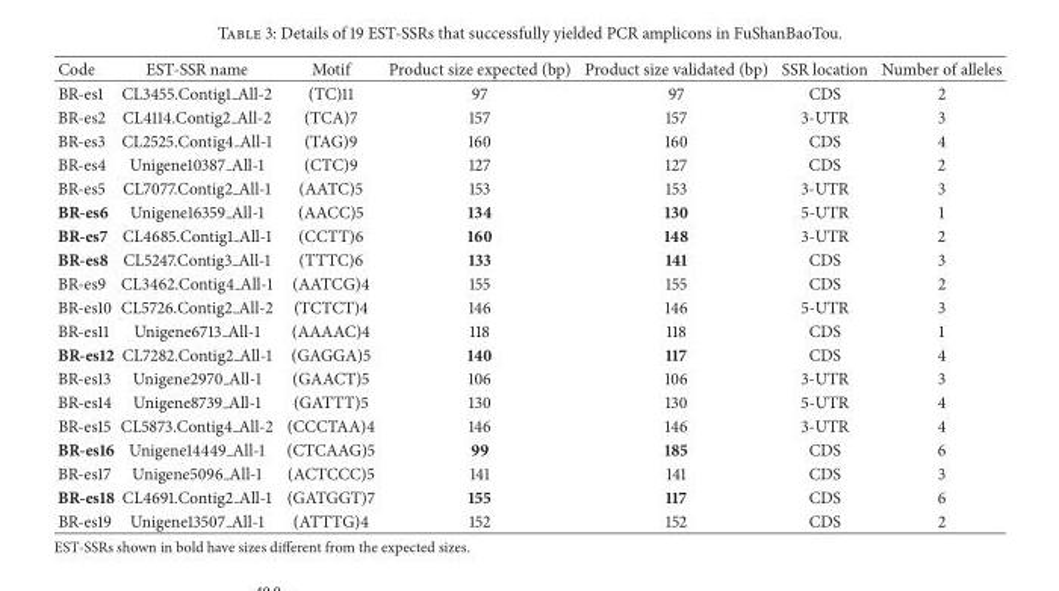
<table><thead><tr><td>Code</td><td>EST-SSR name</td><td>Motif</td><td>Product size expected (bp)</td><td>Product size validated (bp)</td><td>SSR location</td><td>Number of alleles</td></tr></thead><tbody><tr><td>BR-es1</td><td>CL3455.Contig1 All-2</td><td>(TC)11</td><td>97</td><td>97</td><td>CDS</td><td>2</td></tr><tr><td>BR-es2</td><td>CL4114.Contig2 All-2</td><td>(TCA)7</td><td>157</td><td>157</td><td>3-UTR</td><td>3</td></tr><tr><td>BR-es3</td><td>CL2525.Contig4 All-1</td><td>(TAG)9</td><td>160</td><td>160</td><td>CDS</td><td>4</td></tr><tr><td>BR-es4</td><td>Unigene10387 All-1</td><td>(CTC)9</td><td>127</td><td>127</td><td>CDS</td><td>2</td></tr><tr><td>BR-es5</td><td>CL7077.Contig2 All-1</td><td>(AATC)5</td><td>153</td><td>153</td><td>3-UTR</td><td>3</td></tr><tr><td>BR-es6</td><td>Unigene16359 All-1</td><td>(AACC)5</td><td>134</td><td>130</td><td>5-UTR</td><td>1</td></tr><tr><td>BR-es7</td><td>CL4685.Contig1 All-1</td><td>(CCTT)6</td><td>160</td><td>148</td><td>3-UTR</td><td>2</td></tr><tr><td>BR-es8</td><td>CL5247.Contig3 All-1</td><td>(TTTC)6</td><td>133</td><td>141</td><td>CDS</td><td>3</td></tr><tr><td>BR-es9</td><td>CL3462.Contig4 All-1</td><td>(AATCG)4</td><td>155</td><td>155</td><td>CDS</td><td>2</td></tr><tr><td>BR-es10</td><td>CL5726.Contig2 All-2</td><td>(TCTCT)4</td><td>146</td><td>146</td><td>5-UTR</td><td>3</td></tr><tr><td>BR-es11</td><td>Unigene6713 All-1</td><td>(AAAAC)4</td><td>118</td><td>118</td><td>CDS</td><td>1</td></tr><tr><td>BR-es12</td><td>CL7282.Contig2 All-1</td><td>(GAGGA)5</td><td>140</td><td>117</td><td>CDS</td><td>4</td></tr><tr><td>BR-es13</td><td>Unigene2970 All-1</td><td>(GAACT)5</td><td>106</td><td>106</td><td>3-UTR</td><td>3</td></tr><tr><td>BR-es14</td><td>Unigene8739 All-1</td><td>(GATTT)5</td><td>130</td><td>130</td><td>5-UTR</td><td>4</td></tr><tr><td>BR-es15</td><td>CL5873.Contig4 All-2</td><td>(CCCTAA)4</td><td>146</td><td>146</td><td>3-UTR</td><td>4</td></tr><tr><td>BR-es16</td><td>Unigene14449 All-1</td><td>(CTCAAG)5</td><td>99</td><td>185</td><td>CDS</td><td>6</td></tr><tr><td>BR-es17</td><td>Unigene5096 All-1</td><td>(ACTCCC)5</td><td>141</td><td>141</td><td>CDS</td><td>3</td></tr><tr><td>BR-es18</td><td>CL4691.Contig2 All-1</td><td>(GATGGT)7</td><td>155</td><td>117</td><td>CDS</td><td>6</td></tr><tr><td>BR-es19</td><td>Unigene13507 All-1</td><td>(ATTTG)4</td><td>152</td><td>152</td><td>CDS</td><td>2</td></tr></tbody></table>